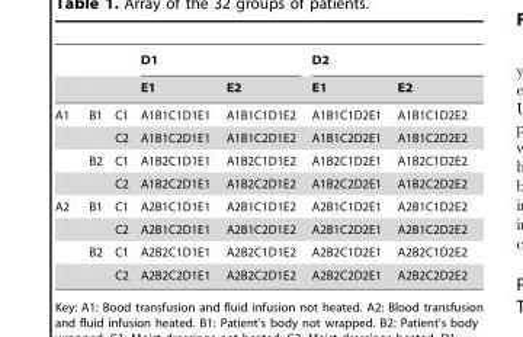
<table><thead><tr><td rowspan="2"></td><td rowspan="2"></td><td rowspan="2"></td><td colspan="2">D1</td><td colspan="2">D2</td></tr><tr><td>E1</td><td>E2</td><td>E1</td><td>E2</td></tr></thead><tbody><tr><td rowspan="4">A1</td><td>B1</td><td>C1</td><td>A1B1C1D1E1</td><td>A1B1C1D1E2</td><td>A1B1C1D2E1</td><td>A1B1C1D2E2</td></tr><tr><td></td><td>C2</td><td>A1B1C2D1E1</td><td>A1B1C2D1E2</td><td>A1B1C2D2E1</td><td>A1B1C2D2E2</td></tr><tr><td>B2</td><td>C1</td><td>A1B2C1D1E1</td><td>A1B2C1D1E2</td><td>A1B2C1D2E1</td><td>A1B2C1D2E2</td></tr><tr><td></td><td>C2</td><td>A1B2C2D1E1</td><td>A1B2C2D1E2</td><td>A1B2C2D2E1</td><td>A1B2C2D2E2</td></tr><tr><td rowspan="4">A2</td><td>B1</td><td>C1</td><td>A2B1C1D1E1</td><td>A2B1C1D1E2</td><td>A2B1C1D2E1</td><td>A2B1C1D2E2</td></tr><tr><td></td><td>C2</td><td>A2B1C2D1E1</td><td>A2B1C2D1E2</td><td>A2B1C2D2E1</td><td>A2B1C2D2E2</td></tr><tr><td>B2</td><td>C1</td><td>A2B2C1D1E1</td><td>A2B2C1D1E2</td><td>A2B2C1D2E1</td><td>A2B2C1D2E2</td></tr><tr><td></td><td>C2</td><td>A2B2C2D1E1</td><td>A2B2C2D1E2</td><td>A2B2C2D2E1</td><td>A2B2C2D2E2</td></tr></tbody></table>